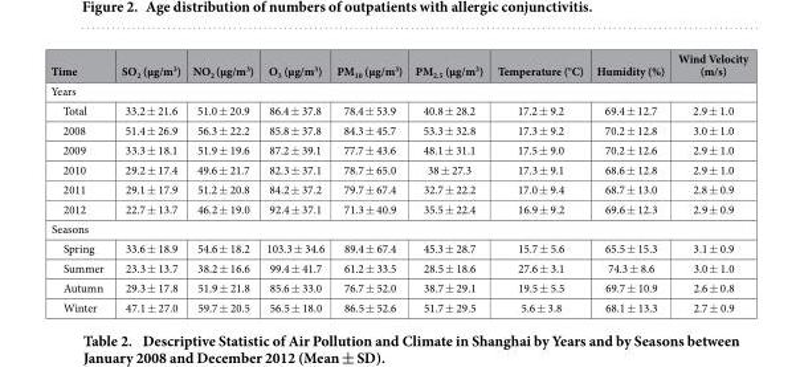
<table><thead><tr><td>Time</td><td>SO<sub>2</sub> (μg/m<sup>3</sup>)</td><td>NO<sub>2</sub> (μg/m<sup>3</sup>)</td><td>O<sub>3</sub> (μg/m<sup>3</sup>)</td><td>PM<sub>10</sub> (μg/m<sup>3</sup>)</td><td>PM<sub>2.5</sub> (μg/m<sup>3</sup>)</td><td>Temperature (°C)</td><td>Humidity (%)</td><td>Wind Velocity (m/s)</td></tr></thead><tbody><tr><td colspan="9">Years</td></tr><tr><td>Total</td><td>33.2 ± 21.6</td><td>51.0 ± 20.9</td><td>86.4 ± 37.8</td><td>78.4 ± 53.9</td><td>40.8 ± 28.2</td><td>17.2 ± 9.2</td><td>69.4 ± 12.7</td><td>2.9 ± 1.0</td></tr><tr><td>2008</td><td>51.4 ± 26.9</td><td>56.3 ± 22.2</td><td>85.8 ± 37.8</td><td>84.3 ± 45.7</td><td>53.3 ± 32.8</td><td>17.3 ± 9.2</td><td>70.2 ± 12.8</td><td>3.0 ± 1.0</td></tr><tr><td>2009</td><td>33.3 ± 18.1</td><td>51.9 ± 19.6</td><td>87.2 ± 39.1</td><td>77.7 ± 43.6</td><td>48.1 ± 31.1</td><td>17.5 ± 9.0</td><td>70.2 ± 12.6</td><td>2.9 ± 1.0</td></tr><tr><td>2010</td><td>29.2 ± 17.4</td><td>49.6 ± 21.7</td><td>82.3 ± 37.1</td><td>78.7 ± 65.0</td><td>38 ± 27.3</td><td>17.3 ± 9.1</td><td>68.6 ± 12.8</td><td>2.9 ± 1.0</td></tr><tr><td>2011</td><td>29.1 ± 17.9</td><td>51.2 ± 20.8</td><td>84.2 ± 37.2</td><td>79.7 ± 67.4</td><td>32.7 ± 22.2</td><td>17.0 ± 9.4</td><td>68.7 ± 13.0</td><td>2.8 ± 0.9</td></tr><tr><td>2012</td><td>22.7 ± 13.7</td><td>46.2 ± 19.0</td><td>92.4 ± 37.1</td><td>71.3 ± 40.9</td><td>35.5 ± 22.4</td><td>16.9 ± 9.2</td><td>69.6 ± 12.3</td><td>2.9 ± 0.9</td></tr><tr><td colspan="9">Seasons</td></tr><tr><td>Spring</td><td>33.6 ± 18.9</td><td>54.6 ± 18.2</td><td>103.3 ± 34.6</td><td>89.4 ± 67.4</td><td>45.3 ± 28.7</td><td>15.7 ± 5.6</td><td>65.5 ± 15.3</td><td>3.1 ± 0.9</td></tr><tr><td>Summer</td><td>23.3 ± 13.7</td><td>38.2 ± 16.6</td><td>99.4 ± 41.7</td><td>61.2 ± 33.5</td><td>28.5 ± 18.6</td><td>27.6 ± 3.1</td><td>74.3 ± 8.6</td><td>3.0 ± 1.0</td></tr><tr><td>Autumn</td><td>29.3 ± 17.8</td><td>51.9 ± 21.8</td><td>85.6 ± 33.0</td><td>76.7 ± 52.0</td><td>38.7 ± 29.1</td><td>19.5 ± 5.5</td><td>69.7 ± 10.9</td><td>2.6 ± 0.8</td></tr><tr><td>Winter</td><td>47.1 ± 27.0</td><td>59.7 ± 20.5</td><td>56.5 ± 18.0</td><td>86.5 ± 52.6</td><td>51.7 ± 29.5</td><td>5.6 ± 3.8</td><td>68.1 ± 13.3</td><td>2.7 ± 0.9</td></tr></tbody></table>